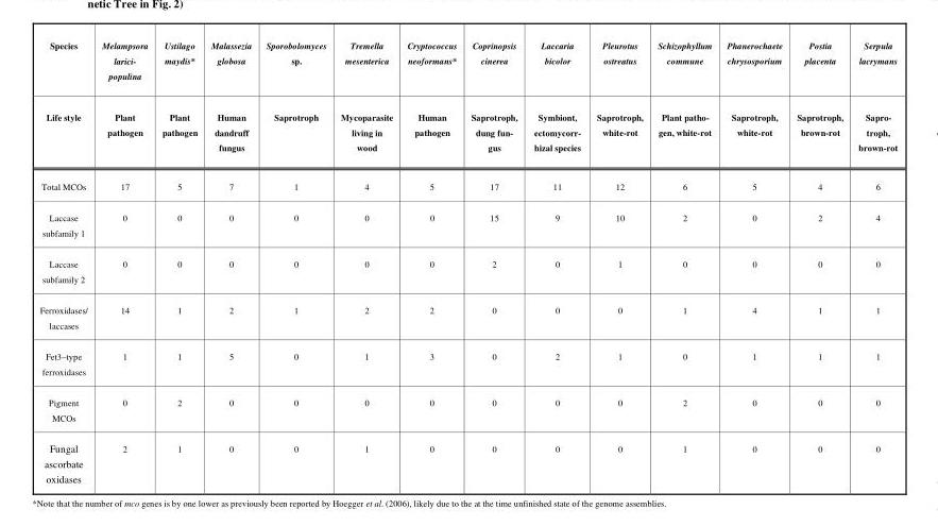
<table><thead><tr><td rowspan="2">Species Life style</td><td rowspan="2">Melampsora larici- populina Plant pathogen</td><td rowspan="2">Ustilago maydis* Plant pathogen</td><td rowspan="2">Malassezia globosa Human dandruff fungus</td><td rowspan="2">Sporobolomyces sp. Saprotroph</td><td rowspan="2">Tremella mesenterica Mycoparasite living in wood</td><td rowspan="2">Cryptococcus neoformans* Human pathogen</td><td rowspan="2">Coprinopsis cinerea Saprotroph, dung fun- gus</td><td rowspan="2">Laccaria bicolor Symbiont, ectomycorr- hizal species</td><td rowspan="2">Pleurotus ostreatus Saprotroph, white-rot</td><td rowspan="2">Schizophyllum commune Plant patho- gen, white-rot</td><td rowspan="2">Phanerochaete chrysosporium Saprotroph, white-rot</td><td rowspan="2">Postia placenta Saprotroph, brown-rot</td><td rowspan="2">Serpula lacrymans Sapro- troph, brown-rot</td></tr><tr></tr></thead><tbody><tr><td>Total MCOs</td><td>17</td><td>5</td><td>7</td><td>1</td><td>4</td><td>5</td><td>17</td><td>11</td><td>12</td><td>6</td><td>5</td><td>4</td><td>6</td></tr><tr><td>Laccase subfamily 1</td><td>0</td><td>0</td><td>0</td><td>0</td><td>0</td><td>0</td><td>15</td><td>9</td><td>10</td><td>2</td><td>0</td><td>2</td><td>4</td></tr><tr><td>Laccase subfamily 2</td><td>0</td><td>0</td><td>0</td><td>0</td><td>0</td><td>0</td><td>2</td><td>0</td><td>1</td><td>0</td><td>0</td><td>0</td><td>0</td></tr><tr><td>Ferroxidases/ laccases</td><td>14</td><td>1</td><td>2</td><td>1</td><td>2</td><td>2</td><td>0</td><td>0</td><td>0</td><td>1</td><td>4</td><td>1</td><td>1</td></tr><tr><td>Fet3–type ferroxidases</td><td>1</td><td>1</td><td>5</td><td>0</td><td>1</td><td>3</td><td>0</td><td>2</td><td>1</td><td>0</td><td>1</td><td>1</td><td>1</td></tr><tr><td>Pigment MCOs</td><td>0</td><td>2</td><td>0</td><td>0</td><td>0</td><td>0</td><td>0</td><td>0</td><td>0</td><td>2</td><td>0</td><td>0</td><td>0</td></tr><tr><td>Fungal ascorbate oxidases</td><td>2</td><td>1</td><td>0</td><td>0</td><td>1</td><td>0</td><td>0</td><td>0</td><td>0</td><td>1</td><td>0</td><td>0</td><td>0</td></tr></tbody></table>